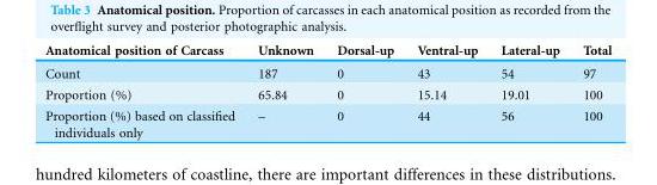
<table><thead><tr><td>Anatomical position of Carcass</td><td>Unknown</td><td>Dorsal-up</td><td>Ventral-up</td><td>Lateral-up</td><td>Total</td></tr></thead><tbody><tr><td>Count</td><td>187</td><td>0</td><td>43</td><td>54</td><td>97</td></tr><tr><td>Proportion (%)</td><td>65.84</td><td>0</td><td>15.14</td><td>19.01</td><td>100</td></tr><tr><td>Proportion (%) based on classified individuals only</td><td>–</td><td>0</td><td>44</td><td>56</td><td>100</td></tr></tbody></table>